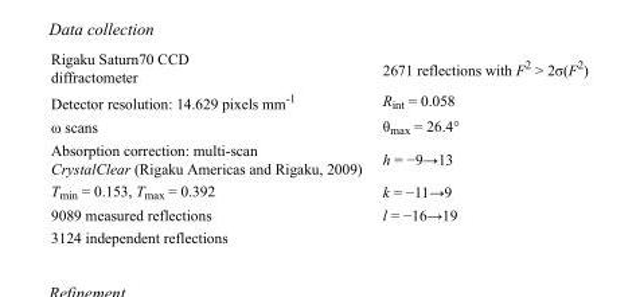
<table><tbody><tr><td>Rigaku Saturn70 CCD diffractometer</td><td>2671 reflections with F<sup>2</sup> &gt; 2σ(F<sup>2</sup>)</td></tr><tr><td>Detector resolution: 14.629 pixels mm<sup>-1</sup></td><td>R<sub>int</sub> = 0.058</td></tr><tr><td>ω scans</td><td>θ<sub>max</sub> = 26.4°</td></tr><tr><td>Absorption correction: multi-scan CrystalClear (Rigaku Americas and Rigaku, 2009)</td><td>h = −9→13</td></tr><tr><td>T<sub>min</sub> = 0.153, T<sub>max</sub> = 0.392</td><td>k = −11→9</td></tr><tr><td>9089 measured reflections</td><td>l = −16→19</td></tr><tr><td>3124 independent reflections</td><td></td></tr></tbody></table>